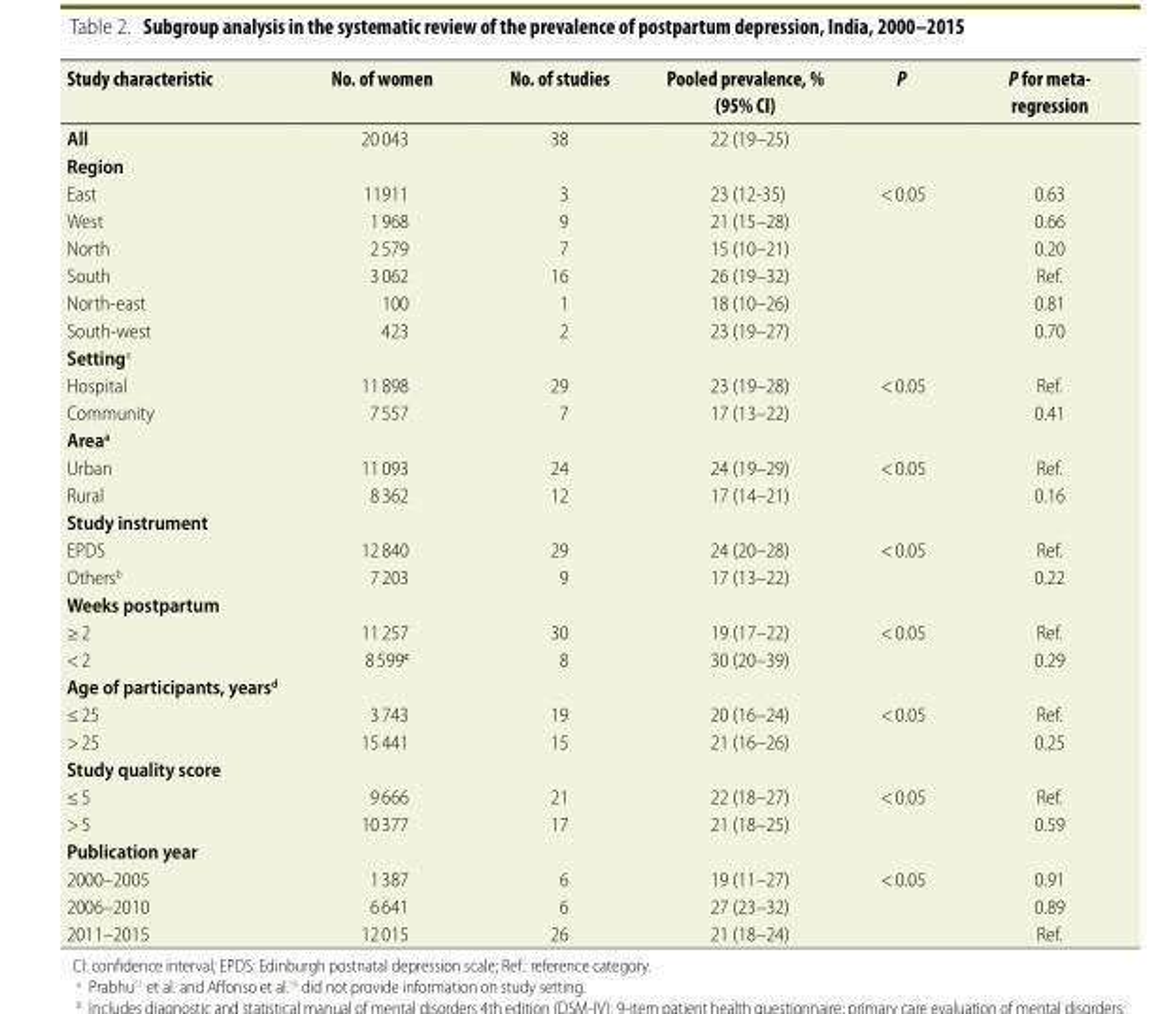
<table><thead><tr><td>Study characteristic</td><td>No. of women</td><td>No. of studies</td><td>Pooled prevalence, % (95% CI)</td><td>P</td><td>P for meta- regression</td></tr></thead><tbody><tr><td>All</td><td>20 043</td><td>38</td><td>22 (19–25)</td><td></td><td></td></tr><tr><td colspan="6">Region</td></tr><tr><td>East</td><td>11911</td><td>3</td><td>23 (12-35)</td><td rowspan="6">&lt; 0.05</td><td>0.63</td></tr><tr><td>West</td><td>1 968</td><td>9</td><td>21 (15–28)</td><td>0.66</td></tr><tr><td>North</td><td>2 579</td><td>7</td><td>15 (10–21)</td><td>0.20</td></tr><tr><td>South</td><td>3 062</td><td>16</td><td>26 (19–32)</td><td>Ref.</td></tr><tr><td>North-east</td><td>100</td><td>1</td><td>18 (10–26)</td><td>0.81</td></tr><tr><td>South-west</td><td>423</td><td>2</td><td>23 (19–27)</td><td>0.70</td></tr><tr><td colspan="6">Setting<sup>a</sup></td></tr><tr><td>Hospital</td><td>11 898</td><td>29</td><td>23 (19–28)</td><td rowspan="2">&lt; 0.05</td><td>Ref.</td></tr><tr><td>Community</td><td>7 557</td><td>7</td><td>17 (13–22)</td><td>0.41</td></tr><tr><td colspan="6">Area<sup>a</sup></td></tr><tr><td>Urban</td><td>11 093</td><td>24</td><td>24 (19–29)</td><td rowspan="2">&lt; 0.05</td><td>Ref.</td></tr><tr><td>Rural</td><td>8 362</td><td>12</td><td>17 (14–21)</td><td>0.16</td></tr><tr><td colspan="6">Study instrument</td></tr><tr><td>EPDS</td><td>12 840</td><td>29</td><td>24 (20–28)</td><td rowspan="2">&lt; 0.05</td><td>Ref.</td></tr><tr><td>Others<sup>b</sup></td><td>7 203</td><td>9</td><td>17 (13–22)</td><td>0.22</td></tr><tr><td colspan="6">Weeks postpartum</td></tr><tr><td>≥ 2</td><td>11 257</td><td>30</td><td>19 (17–22)</td><td rowspan="2">&lt; 0.05</td><td>Ref.</td></tr><tr><td>&lt; 2</td><td>8 599<sup>c</sup></td><td>8</td><td>30 (20–39)</td><td>0.29</td></tr><tr><td colspan="6">Age of participants, years<sup>d</sup></td></tr><tr><td>≤ 25</td><td>3 743</td><td>19</td><td>20 (16–24)</td><td rowspan="2">&lt; 0.05</td><td>Ref.</td></tr><tr><td>&gt; 25</td><td>15 441</td><td>15</td><td>21 (16–26)</td><td>0.25</td></tr><tr><td colspan="6">Study quality score</td></tr><tr><td>≤ 5</td><td>9 666</td><td>21</td><td>22 (18–27)</td><td rowspan="2">&lt; 0.05</td><td>Ref.</td></tr><tr><td>&gt; 5</td><td>10 377</td><td>17</td><td>21 (18–25)</td><td>0.59</td></tr><tr><td colspan="6">Publication year</td></tr><tr><td>2000–2005</td><td>1 387</td><td>6</td><td>19 (11–27)</td><td rowspan="3">&lt; 0.05</td><td>0.91</td></tr><tr><td>2006–2010</td><td>6 641</td><td>6</td><td>27 (23–32)</td><td>0.89</td></tr><tr><td>2011–2015</td><td>12 015</td><td>26</td><td>21 (18–24)</td><td>Ref.</td></tr></tbody></table>